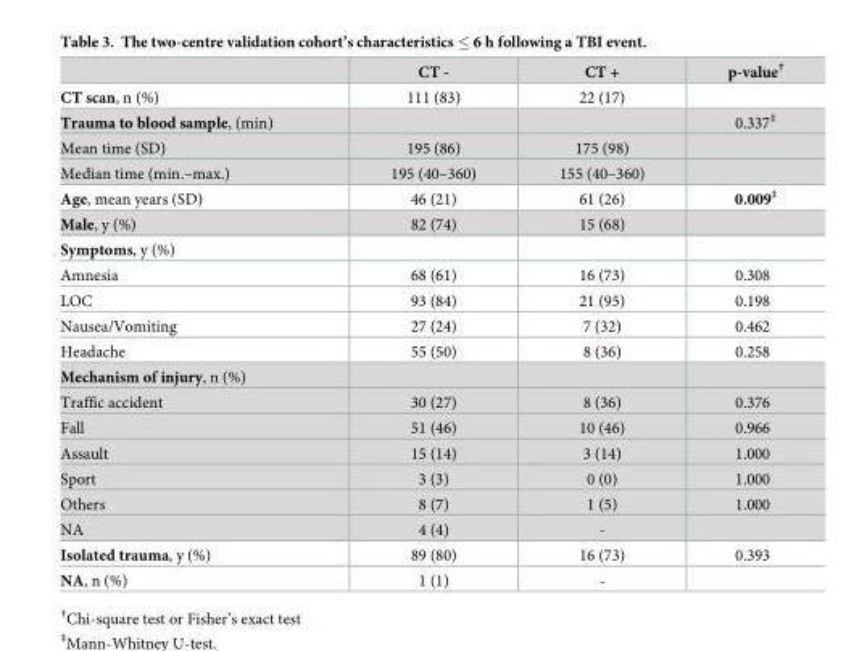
<table><thead><tr><td></td><td>CT -</td><td>CT +</td><td>p-value<sup>†</sup></td></tr></thead><tbody><tr><td>CT scan, n (%)</td><td>111 (83)</td><td>22 (17)</td><td></td></tr><tr><td>Trauma to blood sample, (min)</td><td></td><td></td><td>0.337<sup>‡</sup></td></tr><tr><td>Mean time (SD)</td><td>195 (86)</td><td>175 (98)</td><td></td></tr><tr><td>Median time (min.–max.)</td><td>195 (40–360)</td><td>155 (40–360)</td><td></td></tr><tr><td>Age, mean years (SD)</td><td>46 (21)</td><td>61 (26)</td><td>0.009<sup>‡</sup></td></tr><tr><td>Male, y (%)</td><td>82 (74)</td><td>15 (68)</td><td></td></tr><tr><td colspan="4">Symptoms, y (%)</td></tr><tr><td>Amnesia</td><td>68 (61)</td><td>16 (73)</td><td>0.308</td></tr><tr><td>LOC</td><td>93 (84)</td><td>21 (95)</td><td>0.198</td></tr><tr><td>Nausea/Vomiting</td><td>27 (24)</td><td>7 (32)</td><td>0.462</td></tr><tr><td>Headache</td><td>55 (50)</td><td>8 (36)</td><td>0.258</td></tr><tr><td colspan="4">Mechanism of injury, n (%)</td></tr><tr><td>Traffic accident</td><td>30 (27)</td><td>8 (36)</td><td>0.376</td></tr><tr><td>Fall</td><td>51 (46)</td><td>10 (46)</td><td>0.966</td></tr><tr><td>Assault</td><td>15 (14)</td><td>3 (14)</td><td>1.000</td></tr><tr><td>Sport</td><td>3 (3)</td><td>0 (0)</td><td>1.000</td></tr><tr><td>Others</td><td>8 (7)</td><td>1 (5)</td><td>1.000</td></tr><tr><td>NA</td><td>4 (4)</td><td>-</td><td></td></tr><tr><td>Isolated trauma, y (%)</td><td>89 (80)</td><td>16 (73)</td><td>0.393</td></tr><tr><td>NA, n (%)</td><td>1 (1)</td><td>-</td><td></td></tr></tbody></table>